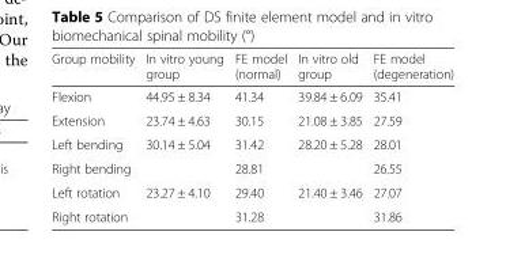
<table><thead><tr><td>Group mobility</td><td>In vitro young group</td><td>FE model (normal)</td><td>In vitro old group</td><td>FE model (degeneration)</td></tr></thead><tbody><tr><td>Flexion</td><td>44.95 ± 8.34</td><td>41.34</td><td>39.84 ± 6.09</td><td>35.41</td></tr><tr><td>Extension</td><td>23.74 ± 4.63</td><td>30.15</td><td>21.08 ± 3.85</td><td>27.59</td></tr><tr><td>Left bending</td><td>30.14 ± 5.04</td><td>31.42</td><td>28.20 ± 5.28</td><td>28.01</td></tr><tr><td>Right bending</td><td></td><td>28.81</td><td></td><td>26.55</td></tr><tr><td>Left rotation</td><td>23.27 ± 4.10</td><td>29.40</td><td>21.40 ± 3.46</td><td>27.07</td></tr><tr><td>Right rotation</td><td></td><td>31.28</td><td></td><td>31.86</td></tr></tbody></table>